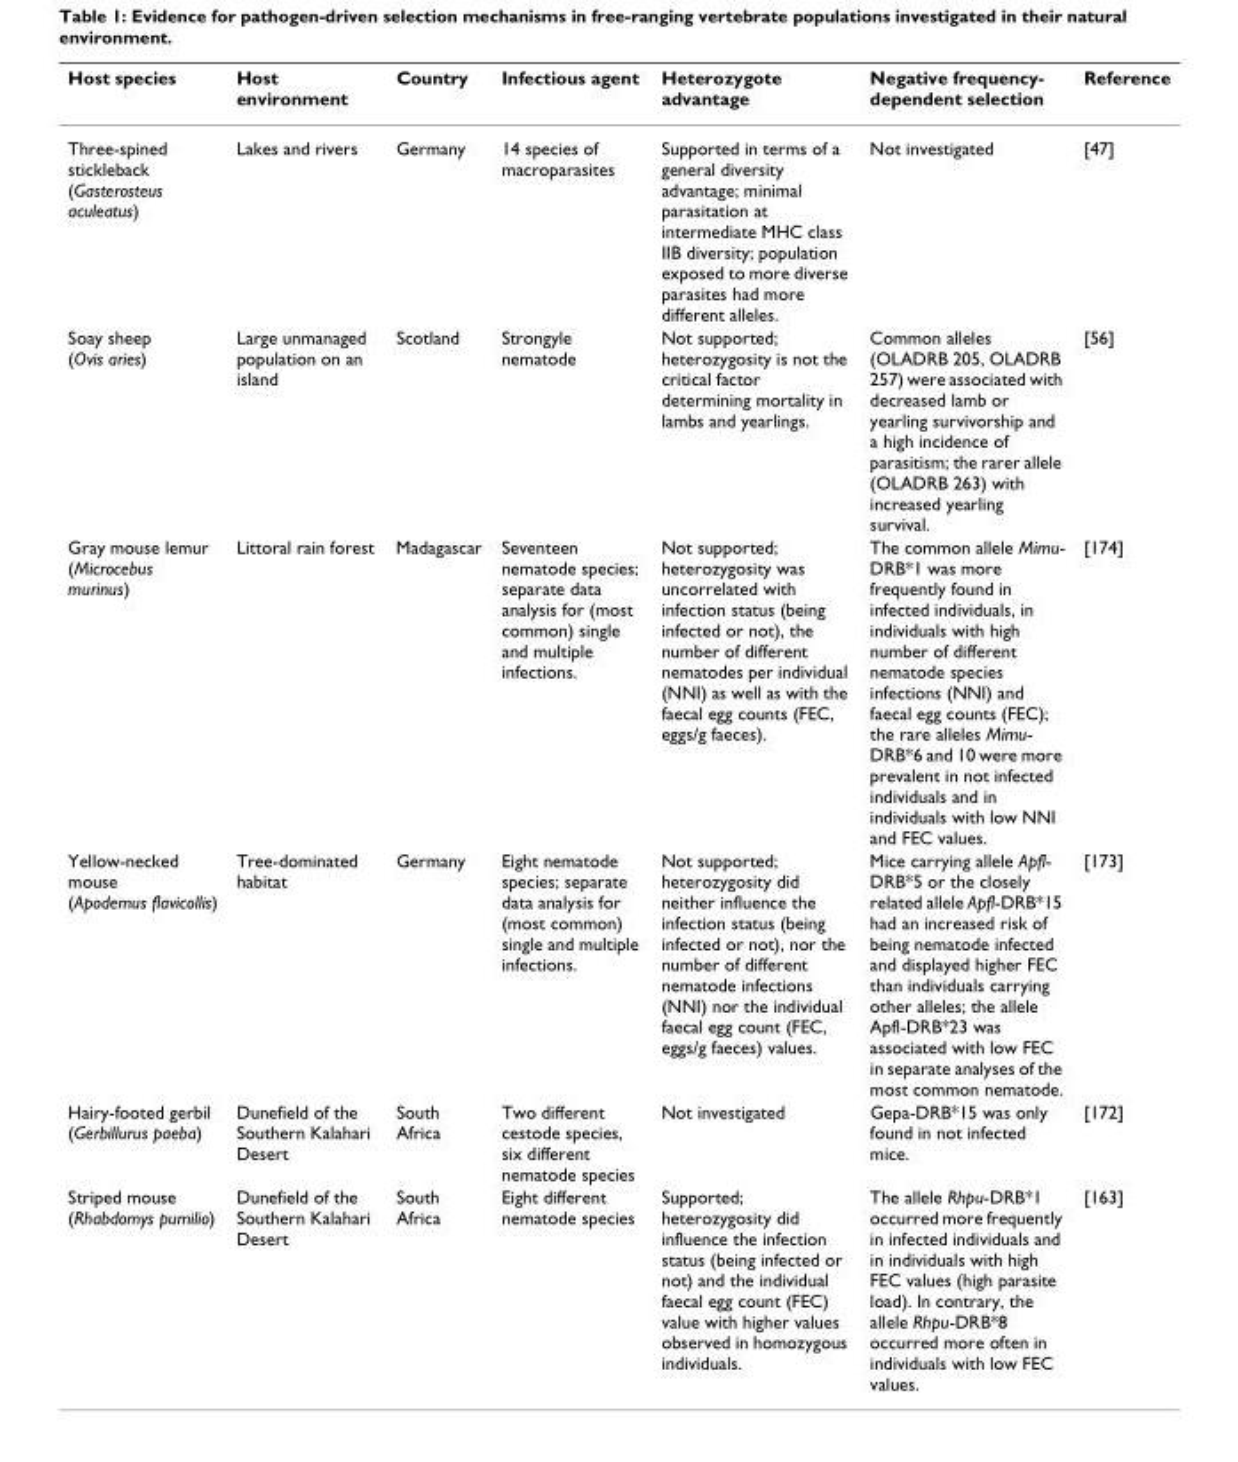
<table><thead><tr><td>Host species</td><td>Host environment</td><td>Country</td><td>Infectious agent</td><td>Heterozygote advantage</td><td>Negative frequency- dependent selection</td><td>Reference</td></tr></thead><tbody><tr><td>Three-spined stickleback (Gasterosteus aculeatus)</td><td>Lakes and rivers</td><td>Germany</td><td>14 species of macroparasites</td><td>Supported in terms of a general diversity advantage; minimal parasitation at intermediate MHC class IIB diversity; population exposed to more diverse parasites had more different alleles.</td><td>Not investigated</td><td>[47]</td></tr><tr><td>Soay sheep (Ovis aries)</td><td>Large unmanaged population on an island</td><td>Scotland</td><td>Strongyle nematode</td><td>Not supported; heterozygosity is not the critical factor determining mortality in lambs and yearlings.</td><td>Common alleles (OLADRB 205, OLADRB 257) were associated with decreased lamb or yearling survivorship and a high incidence of parasitism; the rarer allele (OLADRB 263) with increased yearling survival.</td><td>[56]</td></tr><tr><td>Gray mouse lemur (Microcebus murinus)</td><td>Littoral rain forest</td><td>Madagascar</td><td>Seventeen nematode species; separate data analysis for (most common) single and multiple infections.</td><td>Not supported; heterozygosity was uncorrelated with infection status (being infected or not), the number of different nematodes per individual (NNI) as well as with the faecal egg counts (FEC, eggs/g faeces).</td><td>The common allele Mimu- DRB*1 was more frequently found in infected individuals, in individuals with high number of different nematode species infections (NNI) and faecal egg counts (FEC); the rare alleles Mimu- DRB*6 and 10 were more prevalent in not infected individuals and in individuals with low NNI and FEC values.</td><td>[174]</td></tr><tr><td>Yellow-necked mouse (Apodemus flavicollis)</td><td>Tree-dominated habitat</td><td>Germany</td><td>Eight nematode species; separate data analysis for (most common) single and multiple infections.</td><td>Not supported; heterozygosity did neither influence the infection status (being infected or not), nor the number of different nematode infections (NNI) nor the individual faecal egg count (FEC, eggs/g faeces) values.</td><td>Mice carrying allele Apfl- DRB*5 or the closely related allele Apfl-DRB*15 had an increased risk of being nematode infected and displayed higher FEC than individuals carrying other alleles; the allele Apfl-DRB*23 was associated with low FEC in separate analyses of the most common nematode.</td><td>[173]</td></tr><tr><td>Hairy-footed gerbil (Gerbillurus paeba)</td><td>Dunefield of the Southern Kalahari Desert</td><td>South Africa</td><td>Two different cestode species, six different nematode species</td><td>Not investigated</td><td>Gepa-DRB*15 was only found in not infected mice.</td><td>[172]</td></tr><tr><td>Striped mouse (Rhabdomys pumilio)</td><td>Dunefield of the Southern Kalahari Desert</td><td>South Africa</td><td>Eight different nematode species</td><td>Supported; heterozygosity did influence the infection status (being infected or not) and the individual faecal egg count (FEC) value with higher values observed in homozygous individuals.</td><td>The allele Rhpu-DRB*1 occurred more frequently in infected individuals and in individuals with high FEC values (high parasite load). In contrary, the allele Rhpu-DRB*8 occurred more often in individuals with low FEC values.</td><td>[163]</td></tr></tbody></table>